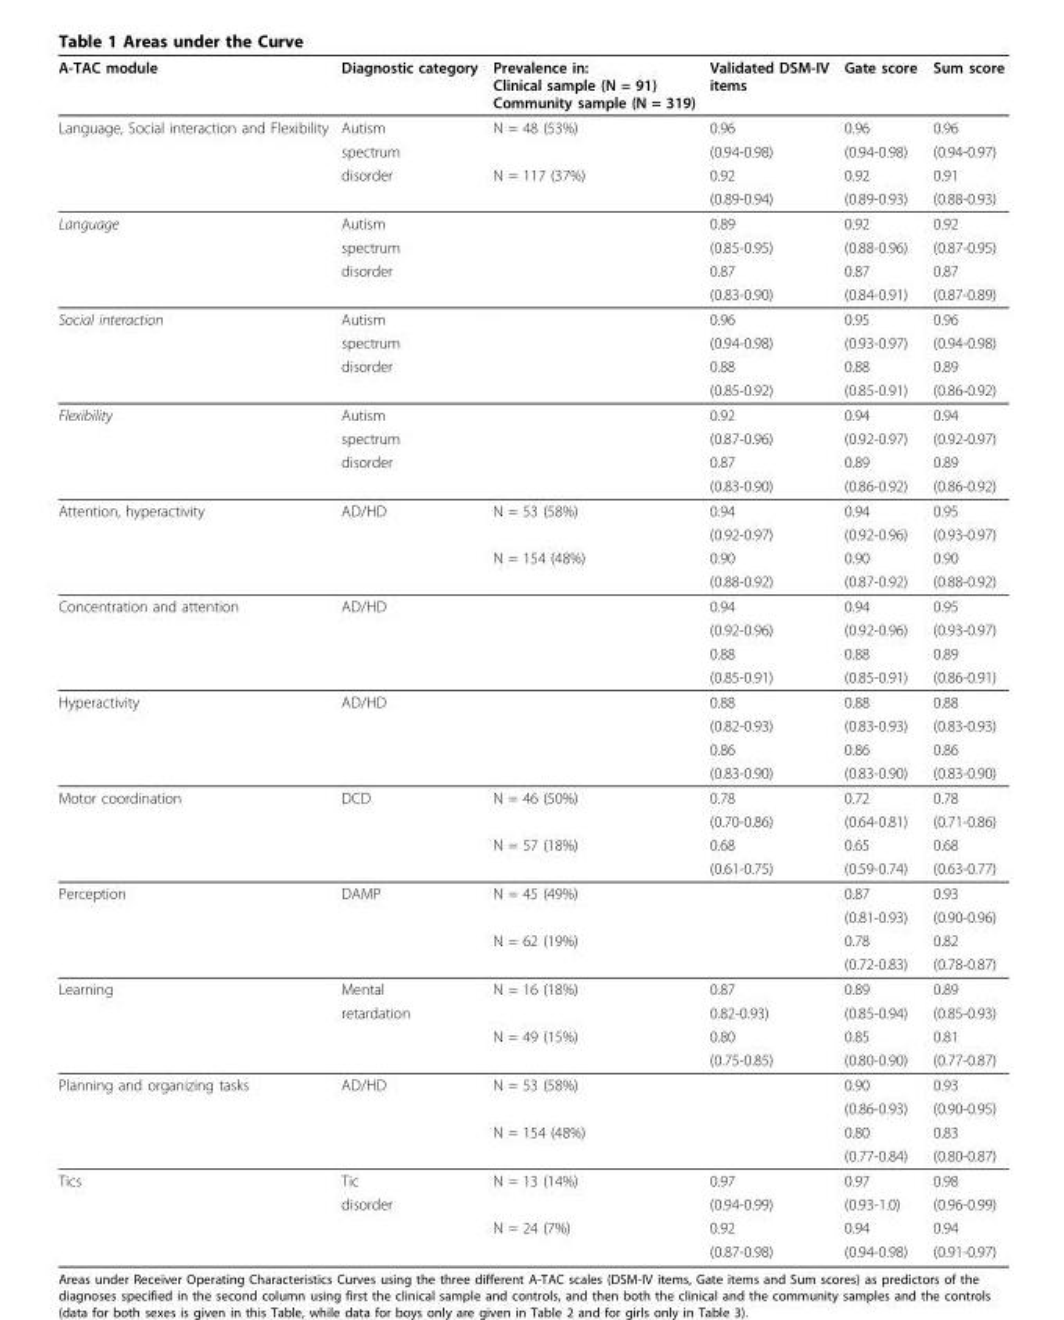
<table><thead><tr><td>A-TAC module</td><td>Diagnostic category</td><td>Prevalence in: Clinical sample (N = 91) Community sample (N = 319)</td><td>Validated DSM-IV items</td><td>Gate score</td><td>Sum score</td></tr></thead><tbody><tr><td rowspan="4">Language, Social interaction and Flexibility</td><td>Autism</td><td>N = 48 (53%)</td><td>0.96</td><td>0.96</td><td>0.96</td></tr><tr><td>spectrum</td><td></td><td>(0.94-0.98)</td><td>(0.94-0.98)</td><td>(0.94-0.97)</td></tr><tr><td>disorder</td><td>N = 117 (37%)</td><td>0.92</td><td>0.92</td><td>0.91</td></tr><tr><td></td><td></td><td>(0.89-0.94)</td><td>(0.89-0.93)</td><td>(0.88-0.93)</td></tr><tr><td rowspan="4">Language</td><td>Autism</td><td></td><td>0.89</td><td>0.92</td><td>0.92</td></tr><tr><td>spectrum</td><td></td><td>(0.85-0.95)</td><td>(0.88-0.96)</td><td>(0.87-0.95)</td></tr><tr><td>disorder</td><td></td><td>0.87</td><td>0.87</td><td>0.87</td></tr><tr><td></td><td></td><td>(0.83-0.90)</td><td>(0.84-0.91)</td><td>(0.87-0.89)</td></tr><tr><td rowspan="4">Social interaction</td><td>Autism</td><td></td><td>0.96</td><td>0.95</td><td>0.96</td></tr><tr><td>spectrum</td><td></td><td>(0.94-0.98)</td><td>(0.93-0.97)</td><td>(0.94-0.98)</td></tr><tr><td>disorder</td><td></td><td>0.88</td><td>0.88</td><td>0.89</td></tr><tr><td></td><td></td><td>(0.85-0.92)</td><td>(0.85-0.91)</td><td>(0.86-0.92)</td></tr><tr><td rowspan="4">Flexibility</td><td>Autism</td><td></td><td>0.92</td><td>0.94</td><td>0.94</td></tr><tr><td>spectrum</td><td></td><td>(0.87-0.96)</td><td>(0.92-0.97)</td><td>(0.92-0.97)</td></tr><tr><td>disorder</td><td></td><td>0.87</td><td>0.89</td><td>0.89</td></tr><tr><td></td><td></td><td>(0.83-0.90)</td><td>(0.86-0.92)</td><td>(0.86-0.92)</td></tr><tr><td rowspan="4">Attention, hyperactivity</td><td>AD/HD</td><td>N = 53 (58%)</td><td>0.94</td><td>0.94</td><td>0.95</td></tr><tr><td></td><td></td><td>(0.92-0.97)</td><td>(0.92-0.96)</td><td>(0.93-0.97)</td></tr><tr><td></td><td>N = 154 (48%)</td><td>0.90</td><td>0.90</td><td>0.90</td></tr><tr><td></td><td></td><td>(0.88-0.92)</td><td>(0.87-0.92)</td><td>(0.88-0.92)</td></tr><tr><td rowspan="4">Concentration and attention</td><td>AD/HD</td><td></td><td>0.94</td><td>0.94</td><td>0.95</td></tr><tr><td></td><td></td><td>(0.92-0.96)</td><td>(0.92-0.96)</td><td>(0.93-0.97)</td></tr><tr><td></td><td></td><td>0.88</td><td>0.88</td><td>0.89</td></tr><tr><td></td><td></td><td>(0.85-0.91)</td><td>(0.85-0.91)</td><td>(0.86-0.91)</td></tr><tr><td rowspan="4">Hyperactivity</td><td>AD/HD</td><td></td><td>0.88</td><td>0.88</td><td>0.88</td></tr><tr><td></td><td></td><td>(0.82-0.93)</td><td>(0.83-0.93)</td><td>(0.83-0.93)</td></tr><tr><td></td><td></td><td>0.86</td><td>0.86</td><td>0.86</td></tr><tr><td></td><td></td><td>(0.83-0.90)</td><td>(0.83-0.90)</td><td>(0.83-0.90)</td></tr><tr><td rowspan="4">Motor coordination</td><td>DCD</td><td>N = 46 (50%)</td><td>0.78</td><td>0.72</td><td>0.78</td></tr><tr><td></td><td></td><td>(0.70-0.86)</td><td>(0.64-0.81)</td><td>(0.71-0.86)</td></tr><tr><td></td><td>N = 57 (18%)</td><td>0.68</td><td>0.65</td><td>0.68</td></tr><tr><td></td><td></td><td>(0.61-0.75)</td><td>(0.59-0.74)</td><td>(0.63-0.77)</td></tr><tr><td rowspan="4">Perception</td><td>DAMP</td><td>N = 45 (49%)</td><td></td><td>0.87</td><td>0.93</td></tr><tr><td></td><td></td><td></td><td>(0.81-0.93)</td><td>(0.90-0.96)</td></tr><tr><td></td><td>N = 62 (19%)</td><td></td><td>0.78</td><td>0.82</td></tr><tr><td></td><td></td><td></td><td>(0.72-0.83)</td><td>(0.78-0.87)</td></tr><tr><td rowspan="4">Learning</td><td>Mental</td><td>N = 16 (18%)</td><td>0.87</td><td>0.89</td><td>0.89</td></tr><tr><td>retardation</td><td></td><td>0.82-0.93)</td><td>(0.85-0.94)</td><td>(0.85-0.93)</td></tr><tr><td></td><td>N = 49 (15%)</td><td>0.80</td><td>0.85</td><td>0.81</td></tr><tr><td></td><td></td><td>(0.75-0.85)</td><td>(0.80-0.90)</td><td>(0.77-0.87)</td></tr><tr><td rowspan="4">Planning and organizing tasks</td><td>AD/HD</td><td>N = 53 (58%)</td><td></td><td>0.90</td><td>0.93</td></tr><tr><td></td><td></td><td></td><td>(0.86-0.93)</td><td>(0.90-0.95)</td></tr><tr><td></td><td>N = 154 (48%)</td><td></td><td>0.80</td><td>0.83</td></tr><tr><td></td><td></td><td></td><td>(0.77-0.84)</td><td>(0.80-0.87)</td></tr><tr><td rowspan="4">Tics</td><td>Tic</td><td>N = 13 (14%)</td><td>0.97</td><td>0.97</td><td>0.98</td></tr><tr><td>disorder</td><td></td><td>(0.94-0.99)</td><td>(0.93-1.0)</td><td>(0.96-0.99)</td></tr><tr><td></td><td>N = 24 (7%)</td><td>0.92</td><td>0.94</td><td>0.94</td></tr><tr><td></td><td></td><td>(0.87-0.98)</td><td>(0.94-0.98)</td><td>(0.91-0.97)</td></tr></tbody></table>